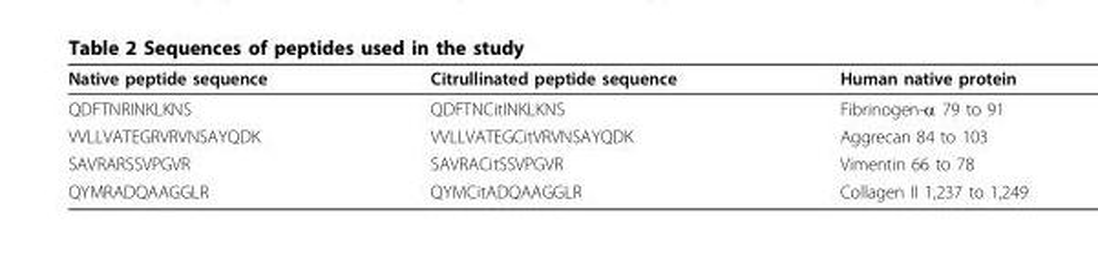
<table><thead><tr><td>Native peptide sequence</td><td>Citrullinated peptide sequence</td><td>Human native protein</td></tr></thead><tbody><tr><td>QDFTNRINKLKNS</td><td>QDFTNCitINKLKNS</td><td>Fibrinogen-α 79 to 91</td></tr><tr><td>VVLLVATEGRVRVNSAYQDK</td><td>VVLLVATEGCitVRVNSAYQDK</td><td>Aggrecan 84 to 103</td></tr><tr><td>SAVRARSSVPGVR</td><td>SAVRACitSSVPGVR</td><td>Vimentin 66 to 78</td></tr><tr><td>QYMRADQAAGGLR</td><td>QYMCitADQAAGGLR</td><td>Collagen II 1,237 to 1,249</td></tr></tbody></table>